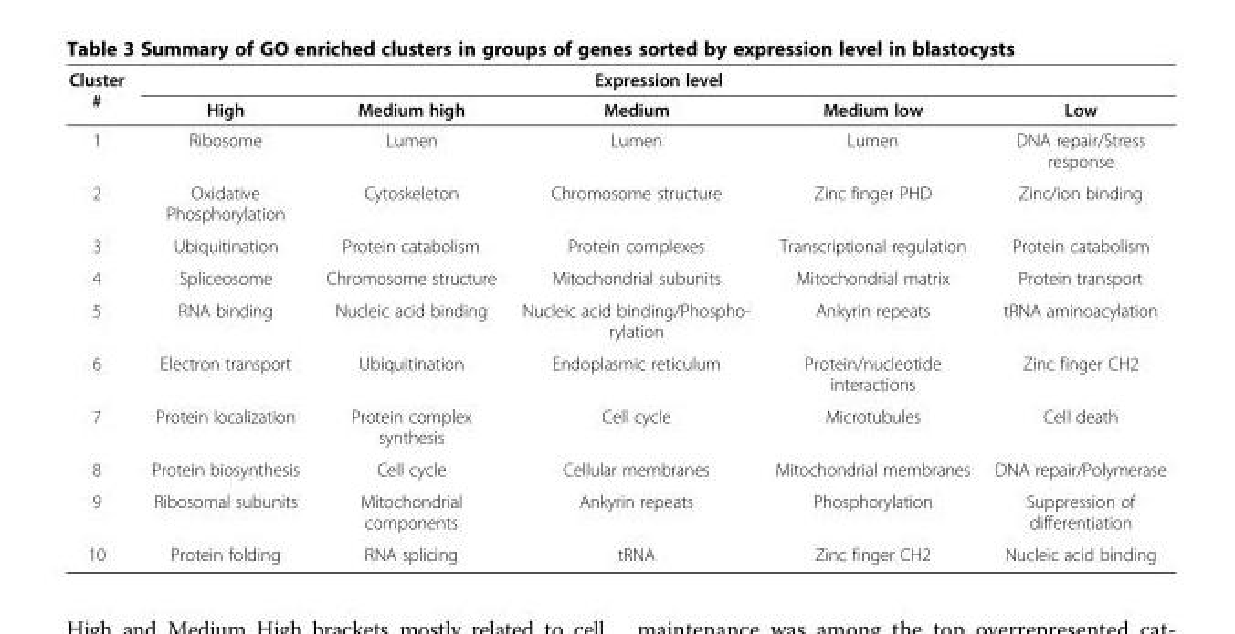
<table><thead><tr><td rowspan="2">Cluster #</td><td colspan="5">Expression level</td></tr><tr><td>High</td><td>Medium high</td><td>Medium</td><td>Medium low</td><td>Low</td></tr></thead><tbody><tr><td>1</td><td>Ribosome</td><td>Lumen</td><td>Lumen</td><td>Lumen</td><td>DNA repair/Stress response</td></tr><tr><td>2</td><td>Oxidative Phosphorylation</td><td>Cytoskeleton</td><td>Chromosome structure</td><td>Zinc finger PHD</td><td>Zinc/ion binding</td></tr><tr><td>3</td><td>Ubiquitination</td><td>Protein catabolism</td><td>Protein complexes</td><td>Transcriptional regulation</td><td>Protein catabolism</td></tr><tr><td>4</td><td>Spliceosome</td><td>Chromosome structure</td><td>Mitochondrial subunits</td><td>Mitochondrial matrix</td><td>Protein transport</td></tr><tr><td>5</td><td>RNA binding</td><td>Nucleic acid binding</td><td>Nucleic acid binding/Phospho- rylation</td><td>Ankyrin repeats</td><td>tRNA aminoacylation</td></tr><tr><td>6</td><td>Electron transport</td><td>Ubiquitination</td><td>Endoplasmic reticulum</td><td>Protein/nucleotide interactions</td><td>Zinc finger CH2</td></tr><tr><td>7</td><td>Protein localization</td><td>Protein complex synthesis</td><td>Cell cycle</td><td>Microtubules</td><td>Cell death</td></tr><tr><td>8</td><td>Protein biosynthesis</td><td>Cell cycle</td><td>Cellular membranes</td><td>Mitochondrial membranes</td><td>DNA repair/Polymerase</td></tr><tr><td>9</td><td>Ribosomal subunits</td><td>Mitochondrial components</td><td>Ankyrin repeats</td><td>Phosphorylation</td><td>Suppression of differentiation</td></tr><tr><td>10</td><td>Protein folding</td><td>RNA splicing</td><td>tRNA</td><td>Zinc finger CH2</td><td>Nucleic acid binding</td></tr></tbody></table>